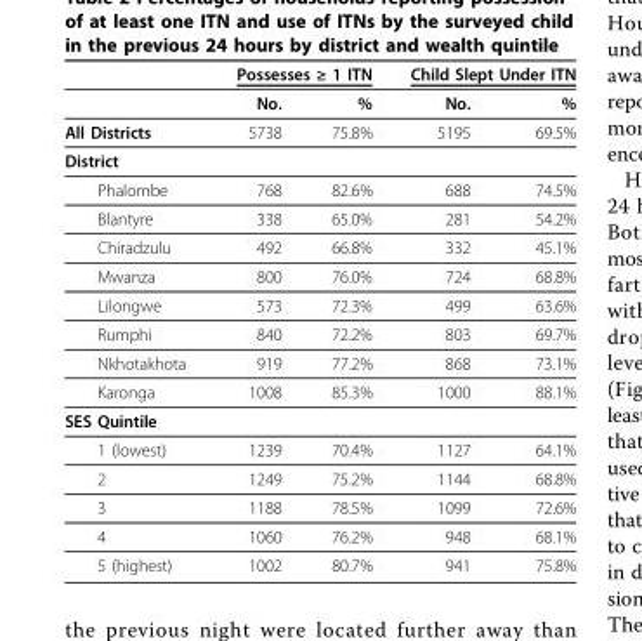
<table><thead><tr><td rowspan="2"></td><td colspan="2">Possesses ≥ 1 ITN</td><td colspan="2">Child Slept Under ITN</td></tr><tr><td>No.</td><td>%</td><td>No.</td><td>%</td></tr></thead><tbody><tr><td>All Districts</td><td>5738</td><td>75.8%</td><td>5195</td><td>69.5%</td></tr><tr><td colspan="5">District</td></tr><tr><td>Phalombe</td><td>768</td><td>82.6%</td><td>688</td><td>74.5%</td></tr><tr><td>Blantyre</td><td>338</td><td>65.0%</td><td>281</td><td>54.2%</td></tr><tr><td>Chiradzulu</td><td>492</td><td>66.8%</td><td>332</td><td>45.1%</td></tr><tr><td>Mwanza</td><td>800</td><td>76.0%</td><td>724</td><td>68.8%</td></tr><tr><td>Lilongwe</td><td>573</td><td>72.3%</td><td>499</td><td>63.6%</td></tr><tr><td>Rumphi</td><td>840</td><td>72.2%</td><td>803</td><td>69.7%</td></tr><tr><td>Nkhotakhota</td><td>919</td><td>77.2%</td><td>868</td><td>73.1%</td></tr><tr><td>Karonga</td><td>1008</td><td>85.3%</td><td>1000</td><td>88.1%</td></tr><tr><td colspan="5">SES Quintile</td></tr><tr><td>1 (lowest)</td><td>1239</td><td>70.4%</td><td>1127</td><td>64.1%</td></tr><tr><td>2</td><td>1249</td><td>75.2%</td><td>1144</td><td>68.8%</td></tr><tr><td>3</td><td>1188</td><td>78.5%</td><td>1099</td><td>72.6%</td></tr><tr><td>4</td><td>1060</td><td>76.2%</td><td>948</td><td>68.1%</td></tr><tr><td>5 (highest)</td><td>1002</td><td>80.7%</td><td>941</td><td>75.8%</td></tr></tbody></table>